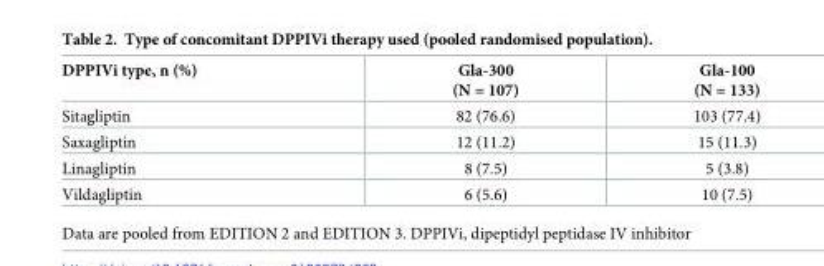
<table><thead><tr><td>DPPIVi type, n (%)</td><td>Gla-300 (N = 107)</td><td>Gla-100 (N = 133)</td></tr></thead><tbody><tr><td>Sitagliptin</td><td>82 (76.6)</td><td>103 (77.4)</td></tr><tr><td>Saxagliptin</td><td>12 (11.2)</td><td>15 (11.3)</td></tr><tr><td>Linagliptin</td><td>8 (7.5)</td><td>5 (3.8)</td></tr><tr><td>Vildagliptin</td><td>6 (5.6)</td><td>10 (7.5)</td></tr></tbody></table>